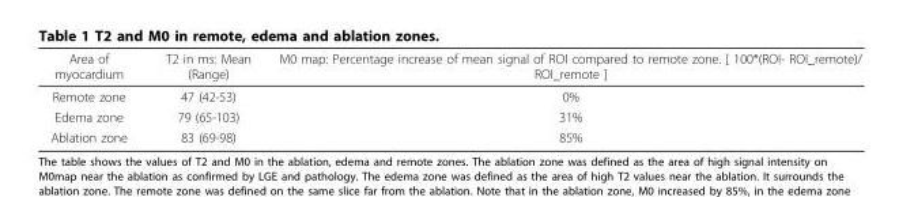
<table><thead><tr><td>Area of myocardium</td><td>T2 in ms: Mean (Range)</td><td>M0 map: Percentage increase of mean signal of ROI compared to remote zone. [ 100*(ROI- ROI_remote)/ ROI_remote ]</td></tr></thead><tbody><tr><td>Remote zone</td><td>47 (42-53)</td><td>0%</td></tr><tr><td>Edema zone</td><td>79 (65-103)</td><td>31%</td></tr><tr><td>Ablation zone</td><td>83 (69-98)</td><td>85%</td></tr></tbody></table>